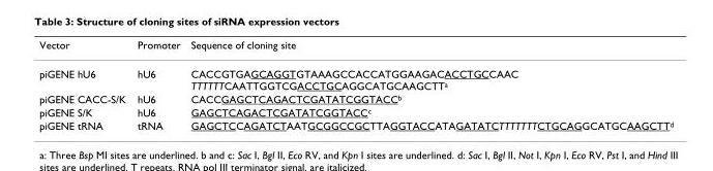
<table><thead><tr><td>Vector</td><td>Promoter</td><td>Sequence of cloning site</td></tr></thead><tbody><tr><td>piGENE hU6</td><td>hU6</td><td>CACCGTGAGCAGGTGTAAAGCCACCATGGAAGACACCTGCCAAC TTTTTTCAATTGGTCGACCTGCAGGCATGCAAGCTT<sup>a</sup></td></tr><tr><td>piGENE CACC-S/K</td><td>hU6</td><td>CACCGAGCTCAGACTCGATATCGGTACC<sup>b</sup></td></tr><tr><td>piGENE S/K</td><td>hU6</td><td>GAGCTCAGACTCGATATCGGTACC<sup>c</sup></td></tr><tr><td>piGENE tRNA</td><td>tRNA</td><td>GAGCTCCAGATCTAATGCGGCCGCTTAGGTACCATAGATATCTTTTTTTCTGCAGGCATGCAAGCTT<sup>d</sup></td></tr></tbody></table>